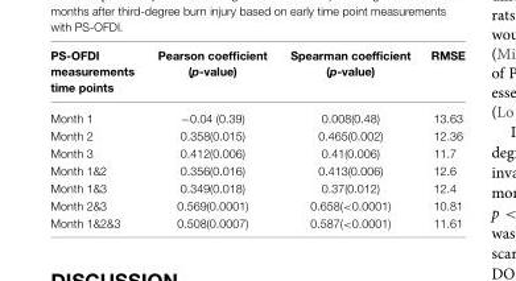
<table><thead><tr><td>PS-OFDI measurements time points</td><td>Pearson coefficient (p-value)</td><td>Spearman coefficient (p-value)</td><td>RMSE</td></tr></thead><tbody><tr><td>Month 1</td><td>−0.04 (0.39)</td><td>0.008(0.48)</td><td>13.63</td></tr><tr><td>Month 2</td><td>0.358(0.015)</td><td>0.465(0.002)</td><td>12.36</td></tr><tr><td>Month 3</td><td>0.412(0.006)</td><td>0.41(0.006)</td><td>11.7</td></tr><tr><td>Month 1&amp;2</td><td>0.356(0.016)</td><td>0.413(0.006)</td><td>12.6</td></tr><tr><td>Month 1&amp;3</td><td>0.349(0.018)</td><td>0.37(0.012)</td><td>12.4</td></tr><tr><td>Month 2&amp;3</td><td>0.569(0.0001)</td><td>0.658(&lt;0.0001)</td><td>10.81</td></tr><tr><td>Month 1&amp;2&amp;3</td><td>0.508(0.0007)</td><td>0.587(&lt;0.0001)</td><td>11.61</td></tr></tbody></table>